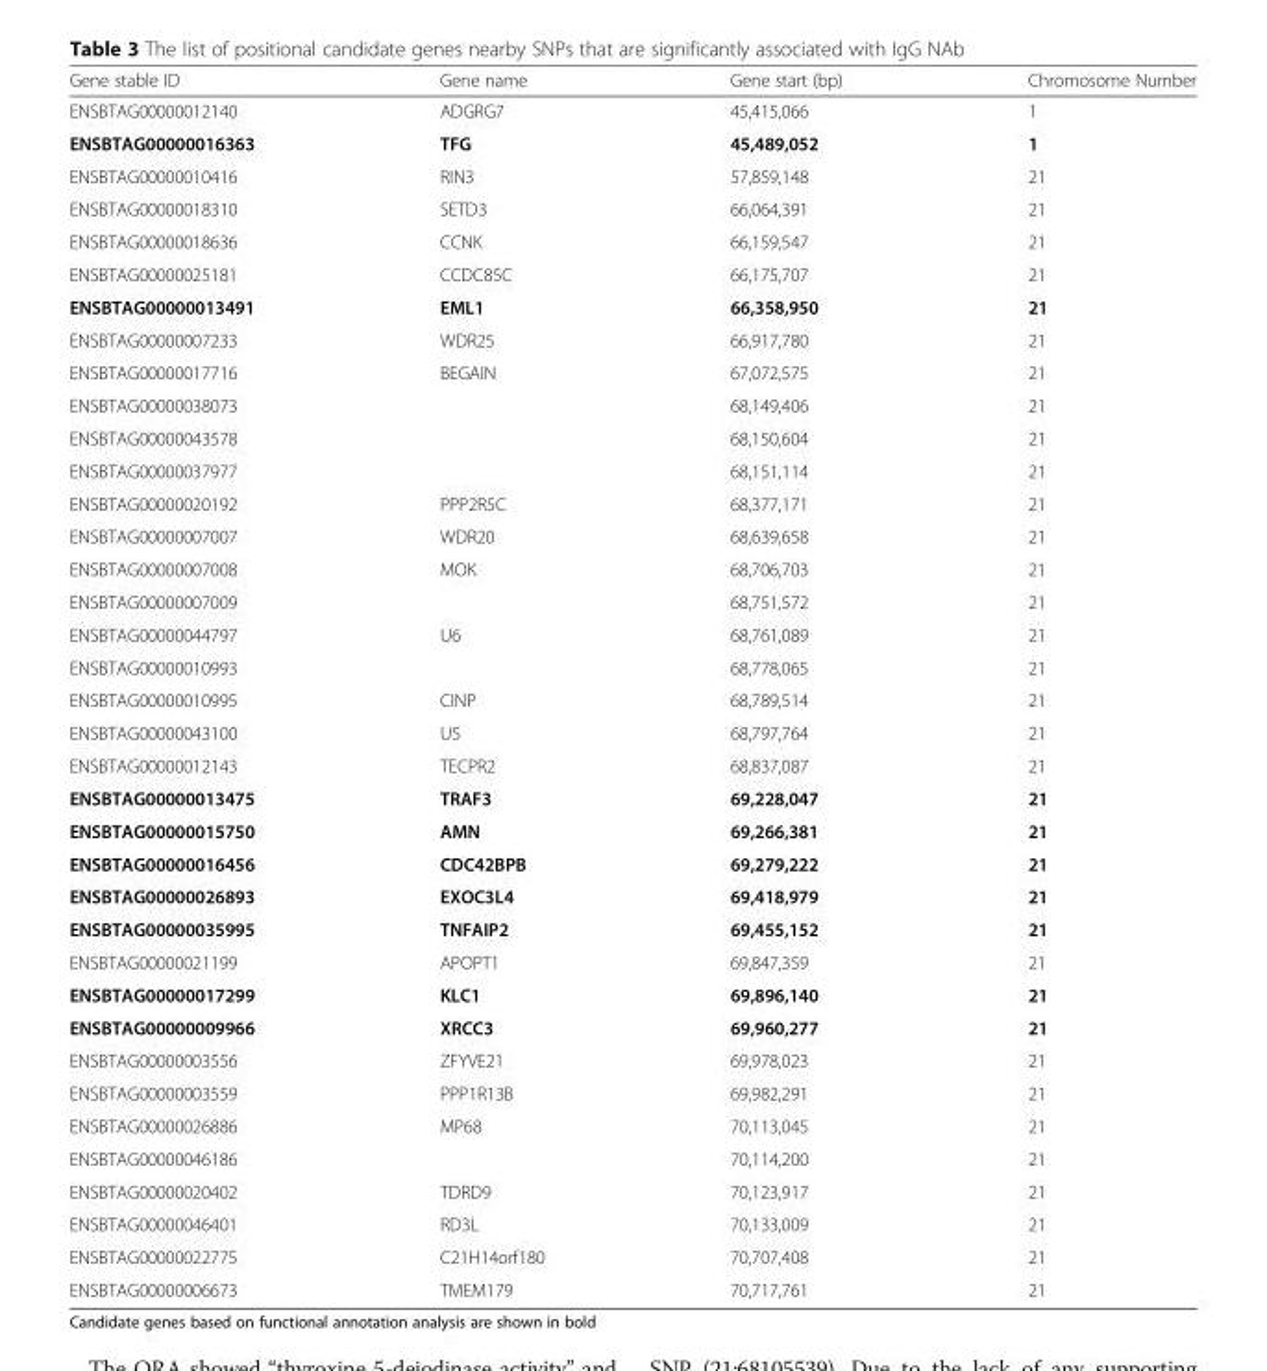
<table><thead><tr><td>Gene stable ID</td><td>Gene name</td><td>Gene start (bp)</td><td>Chromosome Number</td></tr></thead><tbody><tr><td>ENSBTAG00000012140</td><td>ADGRG7</td><td>45,415,066</td><td>1</td></tr><tr><td>ENSBTAG00000016363</td><td>TFG</td><td>45,489,052</td><td>1</td></tr><tr><td>ENSBTAG00000010416</td><td>RIN3</td><td>57,859,148</td><td>21</td></tr><tr><td>ENSBTAG00000018310</td><td>SETD3</td><td>66,064,391</td><td>21</td></tr><tr><td>ENSBTAG00000018636</td><td>CCNK</td><td>66,159,547</td><td>21</td></tr><tr><td>ENSBTAG00000025181</td><td>CCDC85C</td><td>66,175,707</td><td>21</td></tr><tr><td>ENSBTAG00000013491</td><td>EML1</td><td>66,358,950</td><td>21</td></tr><tr><td>ENSBTAG00000007233</td><td>WDR25</td><td>66,917,780</td><td>21</td></tr><tr><td>ENSBTAG00000017716</td><td>BEGAIN</td><td>67,072,575</td><td>21</td></tr><tr><td>ENSBTAG00000038073</td><td></td><td>68,149,406</td><td>21</td></tr><tr><td>ENSBTAG00000043578</td><td></td><td>68,150,604</td><td>21</td></tr><tr><td>ENSBTAG00000037977</td><td></td><td>68,151,114</td><td>21</td></tr><tr><td>ENSBTAG00000020192</td><td>PPP2R5C</td><td>68,377,171</td><td>21</td></tr><tr><td>ENSBTAG00000007007</td><td>WDR20</td><td>68,639,658</td><td>21</td></tr><tr><td>ENSBTAG00000007008</td><td>MOK</td><td>68,706,703</td><td>21</td></tr><tr><td>ENSBTAG00000007009</td><td></td><td>68,751,572</td><td>21</td></tr><tr><td>ENSBTAG00000044797</td><td>U6</td><td>68,761,089</td><td>21</td></tr><tr><td>ENSBTAG00000010993</td><td></td><td>68,778,065</td><td>21</td></tr><tr><td>ENSBTAG00000010995</td><td>CINP</td><td>68,789,514</td><td>21</td></tr><tr><td>ENSBTAG00000043100</td><td>U5</td><td>68,797,764</td><td>21</td></tr><tr><td>ENSBTAG00000012143</td><td>TECPR2</td><td>68,837,087</td><td>21</td></tr><tr><td>ENSBTAG00000013475</td><td>TRAF3</td><td>69,228,047</td><td>21</td></tr><tr><td>ENSBTAG00000015750</td><td>AMN</td><td>69,266,381</td><td>21</td></tr><tr><td>ENSBTAG00000016456</td><td>CDC42BPB</td><td>69,279,222</td><td>21</td></tr><tr><td>ENSBTAG00000026893</td><td>EXOC3L4</td><td>69,418,979</td><td>21</td></tr><tr><td>ENSBTAG00000035995</td><td>TNFAIP2</td><td>69,455,152</td><td>21</td></tr><tr><td>ENSBTAG00000021199</td><td>APOPT1</td><td>69,847,359</td><td>21</td></tr><tr><td>ENSBTAG00000017299</td><td>KLC1</td><td>69,896,140</td><td>21</td></tr><tr><td>ENSBTAG00000009966</td><td>XRCC3</td><td>69,960,277</td><td>21</td></tr><tr><td>ENSBTAG00000003556</td><td>ZFYVE21</td><td>69,978,023</td><td>21</td></tr><tr><td>ENSBTAG00000003559</td><td>PPP1R13B</td><td>69,982,291</td><td>21</td></tr><tr><td>ENSBTAG00000026886</td><td>MP68</td><td>70,113,045</td><td>21</td></tr><tr><td>ENSBTAG00000046186</td><td></td><td>70,114,200</td><td>21</td></tr><tr><td>ENSBTAG00000020402</td><td>TDRD9</td><td>70,123,917</td><td>21</td></tr><tr><td>ENSBTAG00000046401</td><td>RD3L</td><td>70,133,009</td><td>21</td></tr><tr><td>ENSBTAG00000022775</td><td>C21H14orf180</td><td>70,707,408</td><td>21</td></tr><tr><td>ENSBTAG00000006673</td><td>TMEM179</td><td>70,717,761</td><td>21</td></tr></tbody></table>